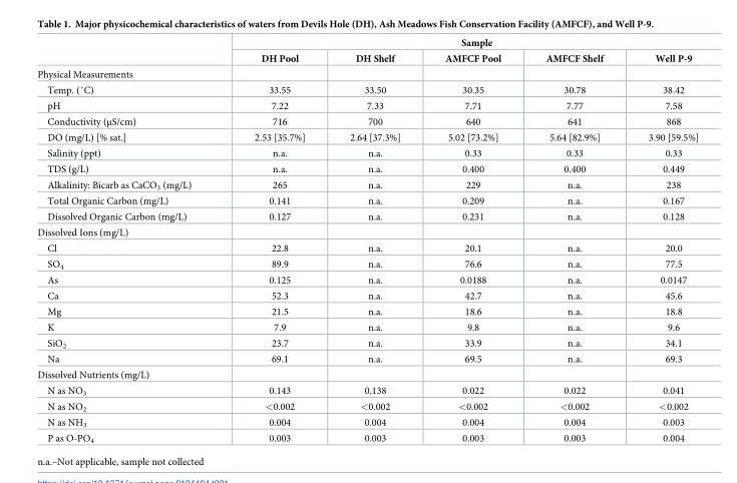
<table><thead><tr><td rowspan="2"></td><td colspan="5">Sample</td></tr><tr><td>DH Pool</td><td>DH Shelf</td><td>AMFCF Pool</td><td>AMFCF Shelf</td><td>Well P-9</td></tr></thead><tbody><tr><td colspan="6">Physical Measurements</td></tr><tr><td>Temp. (˚C)</td><td>33.55</td><td>33.50</td><td>30.35</td><td>30.78</td><td>38.42</td></tr><tr><td>pH</td><td>7.22</td><td>7.33</td><td>7.71</td><td>7.77</td><td>7.58</td></tr><tr><td>Conductivity (μS/cm)</td><td>716</td><td>700</td><td>640</td><td>641</td><td>868</td></tr><tr><td>DO (mg/L) [% sat.]</td><td>2.53 [35.7%]</td><td>2.64 [37.3%]</td><td>5.02 [73.2%]</td><td>5.64 [82.9%]</td><td>3.90 [59.5%]</td></tr><tr><td>Salinity (ppt)</td><td>n.a.</td><td>n.a.</td><td>0.33</td><td>0.33</td><td>0.33</td></tr><tr><td>TDS (g/L)</td><td>n.a.</td><td>n.a.</td><td>0.400</td><td>0.400</td><td>0.449</td></tr><tr><td>Alkalinity: Bicarb as CaCO<sub>3</sub> (mg/L)</td><td>265</td><td>n.a.</td><td>229</td><td>n.a.</td><td>238</td></tr><tr><td>Total Organic Carbon (mg/L)</td><td>0.141</td><td>n.a.</td><td>0.209</td><td>n.a.</td><td>0.167</td></tr><tr><td>Dissolved Organic Carbon (mg/L)</td><td>0.127</td><td>n.a.</td><td>0.231</td><td>n.a.</td><td>0.128</td></tr><tr><td colspan="6">Dissolved Ions (mg/L)</td></tr><tr><td>Cl</td><td>22.8</td><td>n.a.</td><td>20.1</td><td>n.a.</td><td>20.0</td></tr><tr><td>SO<sub>4</sub></td><td>89.9</td><td>n.a.</td><td>76.6</td><td>n.a.</td><td>77.5</td></tr><tr><td>As</td><td>0.125</td><td>n.a.</td><td>0.0188</td><td>n.a.</td><td>0.0147</td></tr><tr><td>Ca</td><td>52.3</td><td>n.a.</td><td>42.7</td><td>n.a.</td><td>45.6</td></tr><tr><td>Mg</td><td>21.5</td><td>n.a.</td><td>18.6</td><td>n.a.</td><td>18.8</td></tr><tr><td>K</td><td>7.9</td><td>n.a.</td><td>9.8</td><td>n.a.</td><td>9.6</td></tr><tr><td>SiO<sub>2</sub></td><td>23.7</td><td>n.a.</td><td>33.9</td><td>n.a.</td><td>34.1</td></tr><tr><td>Na</td><td>69.1</td><td>n.a.</td><td>69.5</td><td>n.a.</td><td>69.3</td></tr><tr><td colspan="6">Dissolved Nutrients (mg/L)</td></tr><tr><td>N as NO<sub>3</sub></td><td>0.143</td><td>0.138</td><td>0.022</td><td>0.022</td><td>0.041</td></tr><tr><td>N as NO<sub>2</sub></td><td>&lt;0.002</td><td>&lt;0.002</td><td>&lt;0.002</td><td>&lt;0.002</td><td>&lt;0.002</td></tr><tr><td>N as NH<sub>3</sub></td><td>0.004</td><td>0.004</td><td>0.004</td><td>0.004</td><td>0.003</td></tr><tr><td>P as O-PO<sub>4</sub></td><td>0.003</td><td>0.003</td><td>0.003</td><td>0.003</td><td>0.004</td></tr></tbody></table>